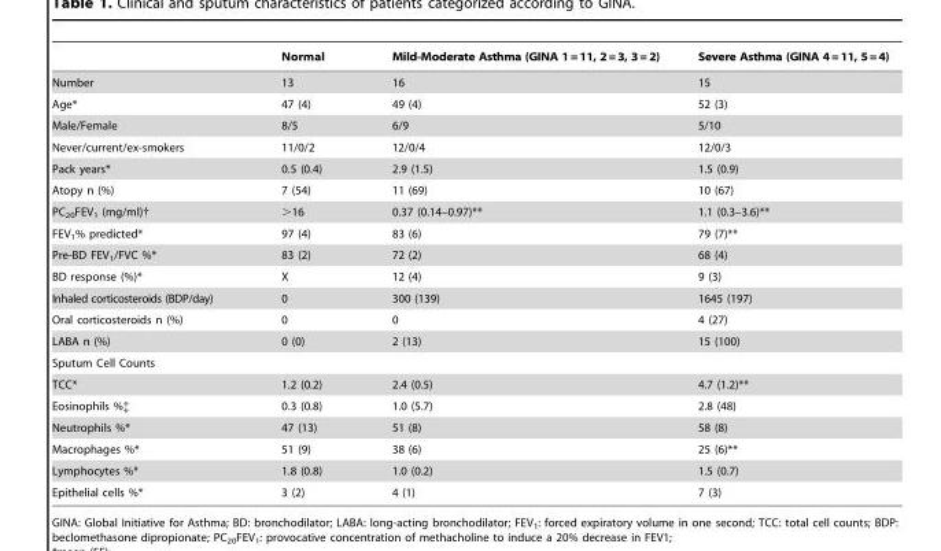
<table><thead><tr><td></td><td>Normal</td><td>Mild-Moderate Asthma (GINA 1=11, 2=3, 3=2)</td><td>Severe Asthma (GINA 4=11, 5=4)</td></tr></thead><tbody><tr><td>Number</td><td>13</td><td>16</td><td>15</td></tr><tr><td>Age*</td><td>47 (4)</td><td>49 (4)</td><td>52 (3)</td></tr><tr><td>Male/Female</td><td>8/5</td><td>6/9</td><td>5/10</td></tr><tr><td>Never/current/ex-smokers</td><td>11/0/2</td><td>12/0/4</td><td>12/0/3</td></tr><tr><td>Pack years*</td><td>0.5 (0.4)</td><td>2.9 (1.5)</td><td>1.5 (0.9)</td></tr><tr><td>Atopy n (%)</td><td>7 (54)</td><td>11 (69)</td><td>10 (67)</td></tr><tr><td>PC<sub>20</sub>FEV<sub>1</sub> (mg/ml)†</td><td>&gt;16</td><td>0.37 (0.14–0.97)**</td><td>1.1 (0.3–3.6)**</td></tr><tr><td>FEV<sub>1</sub>% predicted*</td><td>97 (4)</td><td>83 (6)</td><td>79 (7)**</td></tr><tr><td>Pre-BD FEV<sub>1</sub>/FVC %*</td><td>83 (2)</td><td>72 (2)</td><td>68 (4)</td></tr><tr><td>BD response (%)*</td><td>X</td><td>12 (4)</td><td>9 (3)</td></tr><tr><td>Inhaled corticosteroids (BDP/day)</td><td>0</td><td>300 (139)</td><td>1645 (197)</td></tr><tr><td>Oral corticosteroids n (%)</td><td>0</td><td>0</td><td>4 (27)</td></tr><tr><td>LABA n (%)</td><td>0 (0)</td><td>2 (13)</td><td>15 (100)</td></tr><tr><td colspan="4">Sputum Cell Counts</td></tr><tr><td>TCC*</td><td>1.2 (0.2)</td><td>2.4 (0.5)</td><td>4.7 (1.2)**</td></tr><tr><td>Eosinophils %‡</td><td>0.3 (0.8)</td><td>1.0 (5.7)</td><td>2.8 (48)</td></tr><tr><td>Neutrophils %*</td><td>47 (13)</td><td>51 (8)</td><td>58 (8)</td></tr><tr><td>Macrophages %*</td><td>51 (9)</td><td>38 (6)</td><td>25 (6)**</td></tr><tr><td>Lymphocytes %*</td><td>1.8 (0.8)</td><td>1.0 (0.2)</td><td>1.5 (0.7)</td></tr><tr><td>Epithelial cells %*</td><td>3 (2)</td><td>4 (1)</td><td>7 (3)</td></tr></tbody></table>